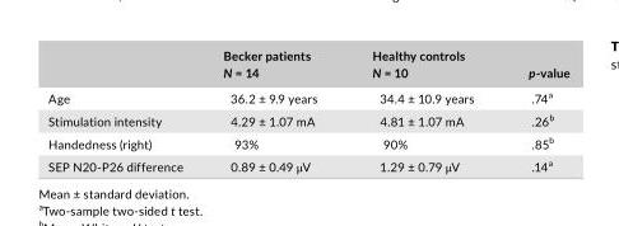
<table><thead><tr><td></td><td>Becker patients N = 14</td><td>Healthy controls N = 10</td><td>p- value</td></tr></thead><tbody><tr><td>Age</td><td>36.2 ± 9.9 years</td><td>34.4 ± 10.9 years</td><td>.74<sup>a</sup></td></tr><tr><td>Stimulation intensity</td><td>4.29 ± 1.07 mA</td><td>4.81 ± 1.07 mA</td><td>.26<sup>b</sup></td></tr><tr><td>Handedness (right)</td><td>93%</td><td>90%</td><td>.85<sup>b</sup></td></tr><tr><td>SEP N20- P26 difference</td><td>0.89 ± 0.49 μV</td><td>1.29 ± 0.79 μV</td><td>.14<sup>a</sup></td></tr></tbody></table>